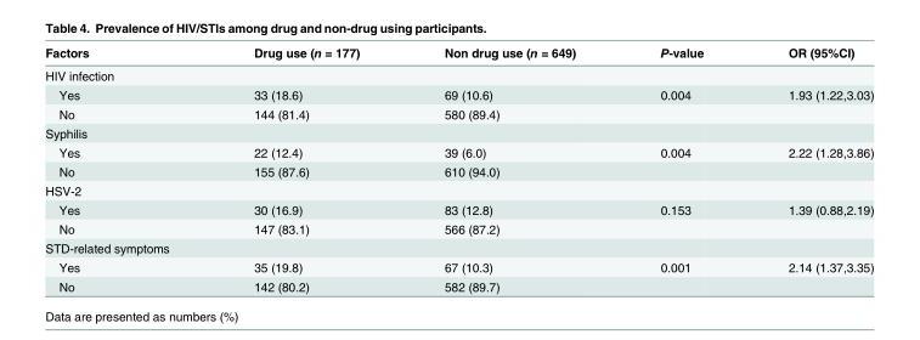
<table><thead><tr><td>Factors</td><td>Drug use (n = 177)</td><td>Non drug use (n = 649)</td><td>P-value</td><td>OR (95%CI)</td></tr></thead><tbody><tr><td colspan="5">HIV infection</td></tr><tr><td>Yes</td><td>33 (18.6)</td><td>69 (10.6)</td><td>0.004</td><td>1.93 (1.22,3.03)</td></tr><tr><td>No</td><td>144 (81.4)</td><td>580 (89.4)</td><td></td><td></td></tr><tr><td colspan="5">Syphilis</td></tr><tr><td>Yes</td><td>22 (12.4)</td><td>39 (6.0)</td><td>0.004</td><td>2.22 (1.28,3.86)</td></tr><tr><td>No</td><td>155 (87.6)</td><td>610 (94.0)</td><td></td><td></td></tr><tr><td colspan="5">HSV-2</td></tr><tr><td>Yes</td><td>30 (16.9)</td><td>83 (12.8)</td><td>0.153</td><td>1.39 (0.88,2.19)</td></tr><tr><td>No</td><td>147 (83.1)</td><td>566 (87.2)</td><td></td><td></td></tr><tr><td colspan="5">STD-related symptoms</td></tr><tr><td>Yes</td><td>35 (19.8)</td><td>67 (10.3)</td><td>0.001</td><td>2.14 (1.37,3.35)</td></tr><tr><td>No</td><td>142 (80.2)</td><td>582 (89.7)</td><td></td><td></td></tr></tbody></table>